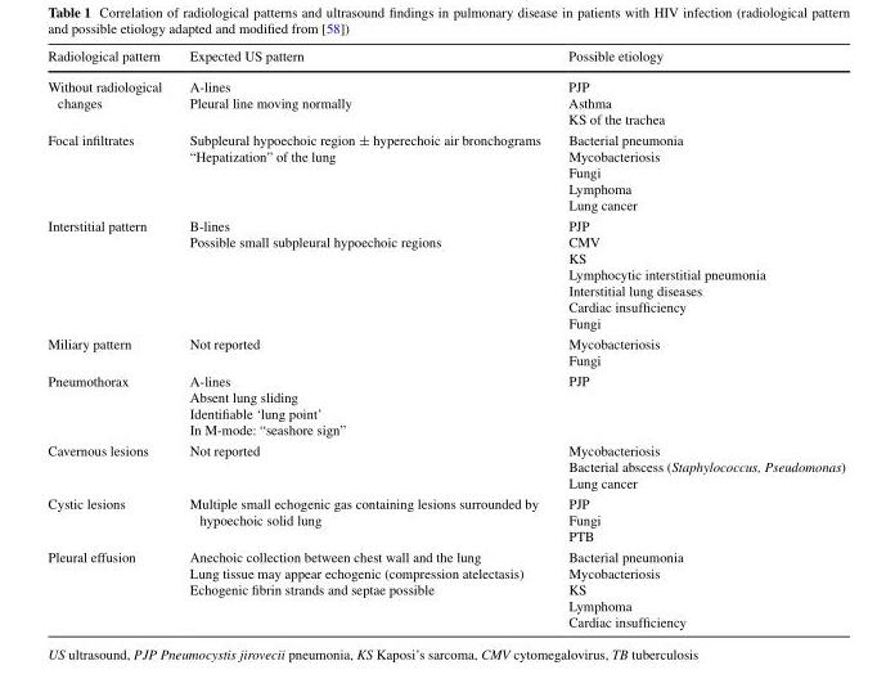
<table><thead><tr><td>Radiological pattern</td><td>Expected US pattern</td><td>Possible etiology</td></tr></thead><tbody><tr><td>Without radiological changes</td><td>A-lines Pleural line moving normally</td><td>PJP Asthma KS of the trachea</td></tr><tr><td>Focal infiltrates</td><td>Subpleural hypoechoic region ± hyperechoic air bronchograms “Hepatization” of the lung</td><td>Bacterial pneumonia Mycobacteriosis Fungi Lymphoma Lung cancer</td></tr><tr><td>Interstitial pattern</td><td>B-lines Possible small subpleural hypoechoic regions</td><td>PJP CMV KS Lymphocytic interstitial pneumonia Interstitial lung diseases Cardiac insufficiency Fungi</td></tr><tr><td>Miliary pattern</td><td>Not reported</td><td>Mycobacteriosis Fungi</td></tr><tr><td>Pneumothorax</td><td>A-lines Absent lung sliding Identifiable ‘lung point’ In M-mode: “seashore sign”</td><td>PJP</td></tr><tr><td>Cavernous lesions</td><td>Not reported</td><td>Mycobacteriosis Bacterial abscess (Staphylococcus, Pseudomonas) Lung cancer</td></tr><tr><td>Cystic lesions</td><td>Multiple small echogenic gas containing lesions surrounded by hypoechoic solid lung</td><td>PJP Fungi PTB</td></tr><tr><td>Pleural effusion</td><td>Anechoic collection between chest wall and the lung Lung tissue may appear echogenic (compression atelectasis) Echogenic fibrin strands and septae possible</td><td>Bacterial pneumonia Mycobacteriosis KS Lymphoma Cardiac insufficiency</td></tr></tbody></table>